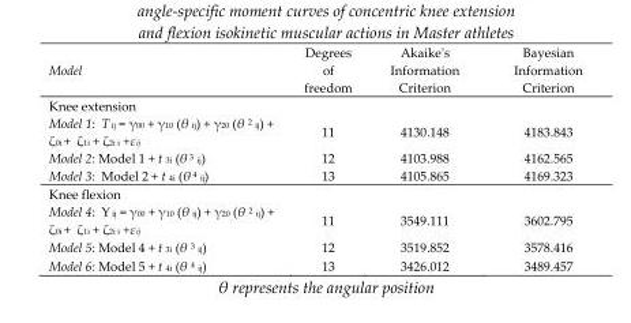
<table><thead><tr><td>Model</td><td>Degrees of freedom</td><td>Akaike&#x27;s Information Criterion</td><td>Bayesian Information Criterion</td></tr></thead><tbody><tr><td colspan="4">Knee extension</td></tr><tr><td>Model 1: T ij = γ00 + γ10 (θ ij) + γ20 (θ 2 ij) + ζ0i + ζ1i + ζ2i i +εij</td><td>11</td><td>4130.148</td><td>4183.843</td></tr><tr><td>Model 2: Model 1 + t <sub>3i</sub> (θ <sup>3</sup> <sub>ij</sub>)</td><td>12</td><td>4103.988</td><td>4162.565</td></tr><tr><td>Model 3: Model 2 + t <sub>4i</sub> (θ <sup>4</sup> <sub>ij</sub>)</td><td>13</td><td>4105.865</td><td>4169.323</td></tr><tr><td colspan="4">Knee flexion</td></tr><tr><td>Model 4: Y ij = γ00 + γ10 (θ ij) + γ20 (θ 2 ij) + ζ0i + ζ1i + ζ2i i +εij</td><td>11</td><td>3549.111</td><td>3602.795</td></tr><tr><td>Model 5: Model 4 + t <sub>3i</sub> (θ <sup>3</sup> <sub>ij</sub>)</td><td>12</td><td>3519.852</td><td>3578.416</td></tr><tr><td>Model 6: Model 5 + t <sub>4i</sub> (θ <sup>4</sup> <sub>ij</sub>)</td><td>13</td><td>3426.012</td><td>3489.457</td></tr></tbody></table>